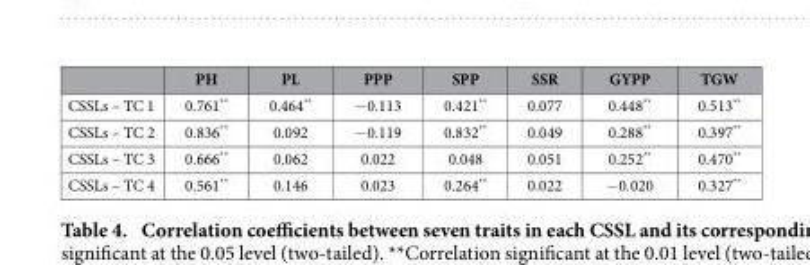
<table><thead><tr><td></td><td>PH</td><td>PL</td><td>PPP</td><td>SPP</td><td>SSR</td><td>GYPP</td><td>TGW</td></tr></thead><tbody><tr><td>CSSLs – TC 1</td><td>0.761**</td><td>0.464**</td><td>− 0.113</td><td>0.421**</td><td>0.077</td><td>0.448**</td><td>0.513**</td></tr><tr><td>CSSLs – TC 2</td><td>0.836**</td><td>0.092</td><td>− 0.119</td><td>0.832**</td><td>0.049</td><td>0.288**</td><td>0.397**</td></tr><tr><td>CSSLs – TC 3</td><td>0.666**</td><td>0.062</td><td>0.022</td><td>0.048</td><td>0.051</td><td>0.252**</td><td>0.470**</td></tr><tr><td>CSSLs – TC 4</td><td>0.561**</td><td>0.146</td><td>0.023</td><td>0.264**</td><td>0.022</td><td>− 0.020</td><td>0.327**</td></tr></tbody></table>